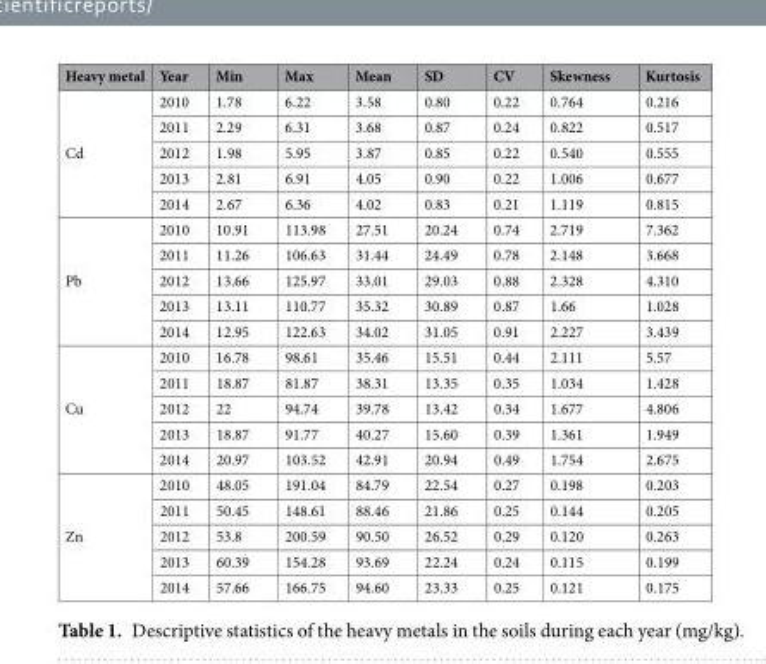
<table><thead><tr><td>Heavy metal</td><td>Year</td><td>Min</td><td>Max</td><td>Mean</td><td>SD</td><td>CV</td><td>Skewness</td><td>Kurtosis</td></tr></thead><tbody><tr><td rowspan="5">Cd</td><td>2010</td><td>1.78</td><td>6.22</td><td>3.58</td><td>0.80</td><td>0.22</td><td>0.764</td><td>0.216</td></tr><tr><td>2011</td><td>2.29</td><td>6.31</td><td>3.68</td><td>0.87</td><td>0.24</td><td>0.822</td><td>0.517</td></tr><tr><td>2012</td><td>1.98</td><td>5.95</td><td>3.87</td><td>0.85</td><td>0.22</td><td>0.540</td><td>0.555</td></tr><tr><td>2013</td><td>2.81</td><td>6.91</td><td>4.05</td><td>0.90</td><td>0.22</td><td>1.006</td><td>0.677</td></tr><tr><td>2014</td><td>2.67</td><td>6.36</td><td>4.02</td><td>0.83</td><td>0.21</td><td>1.119</td><td>0.815</td></tr><tr><td rowspan="5">Pb</td><td>2010</td><td>10.91</td><td>113.98</td><td>27.51</td><td>20.24</td><td>0.74</td><td>2.719</td><td>7.362</td></tr><tr><td>2011</td><td>11.26</td><td>106.63</td><td>31.44</td><td>24.49</td><td>0.78</td><td>2.148</td><td>3.668</td></tr><tr><td>2012</td><td>13.66</td><td>125.97</td><td>33.01</td><td>29.03</td><td>0.88</td><td>2.328</td><td>4.310</td></tr><tr><td>2013</td><td>13.11</td><td>110.77</td><td>35.32</td><td>30.89</td><td>0.87</td><td>1.66</td><td>1.028</td></tr><tr><td>2014</td><td>12.95</td><td>122.63</td><td>34.02</td><td>31.05</td><td>0.91</td><td>2.227</td><td>3.439</td></tr><tr><td rowspan="5">Cu</td><td>2010</td><td>16.78</td><td>98.61</td><td>35.46</td><td>15.51</td><td>0.44</td><td>2.111</td><td>5.57</td></tr><tr><td>2011</td><td>18.87</td><td>81.87</td><td>38.31</td><td>13.35</td><td>0.35</td><td>1.034</td><td>1.428</td></tr><tr><td>2012</td><td>22</td><td>94.74</td><td>39.78</td><td>13.42</td><td>0.34</td><td>1.677</td><td>4.806</td></tr><tr><td>2013</td><td>18.87</td><td>91.77</td><td>40.27</td><td>15.60</td><td>0.39</td><td>1.361</td><td>1.949</td></tr><tr><td>2014</td><td>20.97</td><td>103.52</td><td>42.91</td><td>20.94</td><td>0.49</td><td>1.754</td><td>2.675</td></tr><tr><td rowspan="5">Zn</td><td>2010</td><td>48.05</td><td>191.04</td><td>84.79</td><td>22.54</td><td>0.27</td><td>0.198</td><td>0.203</td></tr><tr><td>2011</td><td>50.45</td><td>148.61</td><td>88.46</td><td>21.86</td><td>0.25</td><td>0.144</td><td>0.205</td></tr><tr><td>2012</td><td>53.8</td><td>200.59</td><td>90.50</td><td>26.52</td><td>0.29</td><td>0.120</td><td>0.263</td></tr><tr><td>2013</td><td>60.39</td><td>154.28</td><td>93.69</td><td>22.24</td><td>0.24</td><td>0.115</td><td>0.199</td></tr><tr><td>2014</td><td>57.66</td><td>166.75</td><td>94.60</td><td>23.33</td><td>0.25</td><td>0.121</td><td>0.175</td></tr></tbody></table>